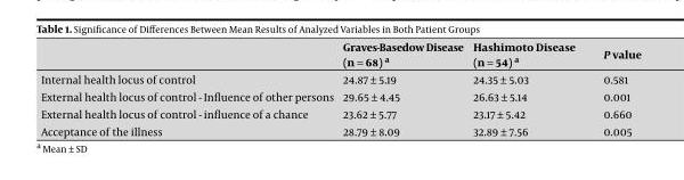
<table><thead><tr><td></td><td>Graves-Basedow Disease (n = 68) a</td><td>Hashimoto Disease (n = 54) a</td><td>P value</td></tr></thead><tbody><tr><td>Internal health locus of control</td><td>24.87 ± 5.19</td><td>24.35 ± 5.03</td><td>0.581</td></tr><tr><td>External health locus of control - Influence of other persons</td><td>29.65 ± 4.45</td><td>26.63 ± 5.14</td><td>0.001</td></tr><tr><td>External health locus of control - influence of a chance</td><td>23.62 ± 5.77</td><td>23.17 ± 5.42</td><td>0.660</td></tr><tr><td>Acceptance of the illness</td><td>28.79 ± 8.09</td><td>32.89 ± 7.56</td><td>0.005</td></tr></tbody></table>